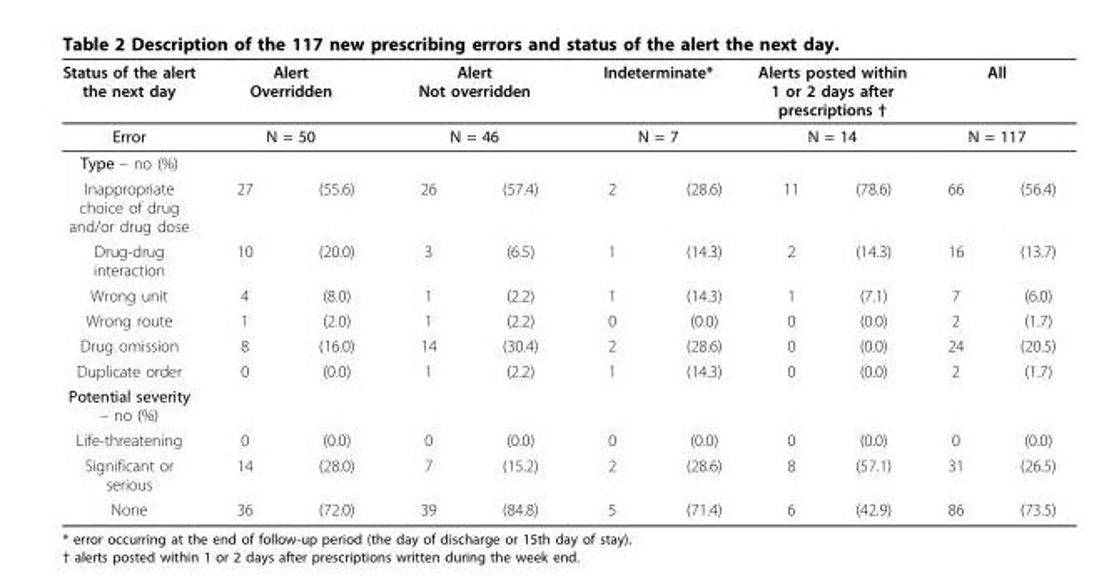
<table><thead><tr><td rowspan="3">Status of the alert the next day Error Type – no (%)</td><td rowspan="2" colspan="2">Alert Overridden N = 50</td><td rowspan="2" colspan="2">Alert Not overridden N = 46</td><td rowspan="2" colspan="2">Indeterminate* N = 7</td><td rowspan="2" colspan="2">Alerts posted within 1 or 2 days after prescriptions † N = 14</td><td rowspan="2" colspan="2">All N = 117</td></tr><tr></tr><tr><td></td><td></td><td></td><td></td><td></td><td></td><td></td><td></td><td></td><td></td></tr></thead><tbody><tr><td>Inappropriate choice of drug and/or drug dose</td><td>27</td><td>(55.6)</td><td>26</td><td>(57.4)</td><td>2</td><td>(28.6)</td><td>11</td><td>(78.6)</td><td>66</td><td>(56.4)</td></tr><tr><td>Drug-drug interaction</td><td>10</td><td>(20.0)</td><td>3</td><td>(6.5)</td><td>1</td><td>(14.3)</td><td>2</td><td>(14.3)</td><td>16</td><td>(13.7)</td></tr><tr><td>Wrong unit</td><td>4</td><td>(8.0)</td><td>1</td><td>(2.2)</td><td>1</td><td>(14.3)</td><td>1</td><td>(7.1)</td><td>7</td><td>(6.0)</td></tr><tr><td>Wrong route</td><td>1</td><td>(2.0)</td><td>1</td><td>(2.2)</td><td>0</td><td>(0.0)</td><td>0</td><td>(0.0)</td><td>2</td><td>(1.7)</td></tr><tr><td>Drug omission</td><td>8</td><td>(16.0)</td><td>14</td><td>(30.4)</td><td>2</td><td>(28.6)</td><td>0</td><td>(0.0)</td><td>24</td><td>(20.5)</td></tr><tr><td>Duplicate order</td><td>0</td><td>(0.0)</td><td>1</td><td>(2.2)</td><td>1</td><td>(14.3)</td><td>0</td><td>(0.0)</td><td>2</td><td>(1.7)</td></tr><tr><td colspan="11">Potential severity – no (%)</td></tr><tr><td>Life-threatening</td><td>0</td><td>(0.0)</td><td>0</td><td>(0.0)</td><td>0</td><td>(0.0)</td><td>0</td><td>(0.0)</td><td>0</td><td>(0.0)</td></tr><tr><td>Significant or serious</td><td>14</td><td>(28.0)</td><td>7</td><td>(15.2)</td><td>2</td><td>(28.6)</td><td>8</td><td>(57.1)</td><td>31</td><td>(26.5)</td></tr><tr><td>None</td><td>36</td><td>(72.0)</td><td>39</td><td>(84.8)</td><td>5</td><td>(71.4)</td><td>6</td><td>(42.9)</td><td>86</td><td>(73.5)</td></tr></tbody></table>